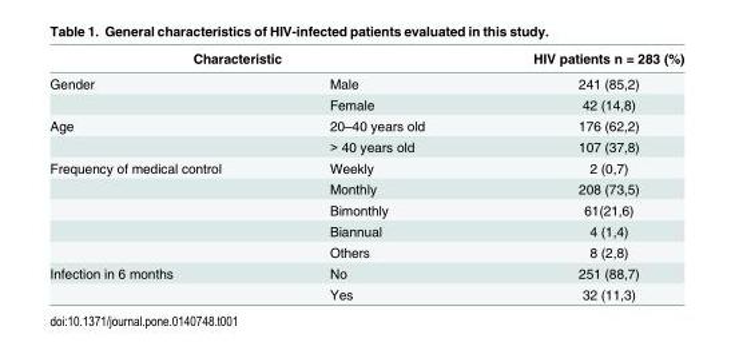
<table><thead><tr><td colspan="2">Characteristic</td><td rowspan="2">HIV patients n = 283 (%) 241 (85,2)</td></tr><tr><td>Gender</td><td>Male</td></tr></thead><tbody><tr><td></td><td>Female</td><td>42 (14,8)</td></tr><tr><td rowspan="2">Age</td><td>20–40 years old</td><td>176 (62,2)</td></tr><tr><td>&gt; 40 years old</td><td>107 (37,8)</td></tr><tr><td rowspan="5">Frequency of medical control</td><td>Weekly</td><td>2 (0,7)</td></tr><tr><td>Monthly</td><td>208 (73,5)</td></tr><tr><td>Bimonthly</td><td>61(21,6)</td></tr><tr><td>Biannual</td><td>4 (1,4)</td></tr><tr><td>Others</td><td>8 (2,8)</td></tr><tr><td rowspan="2">Infection in 6 months</td><td>No</td><td>251 (88,7)</td></tr><tr><td>Yes</td><td>32 (11,3)</td></tr></tbody></table>